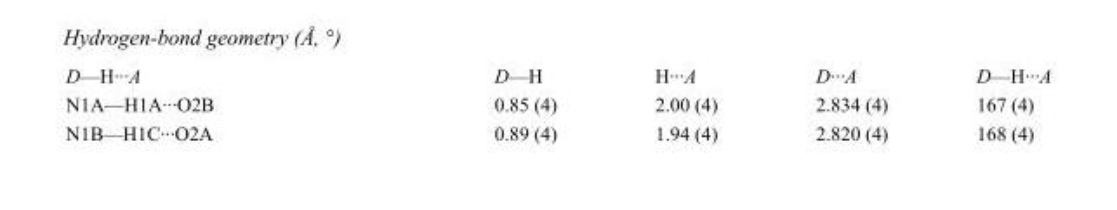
<table><tbody><tr><td>D—H···A</td><td>D—H</td><td>H···A</td><td>D···A</td><td>D—H···A</td></tr><tr><td>N1A—H1A···O2B</td><td>0.85 (4)</td><td>2.00 (4)</td><td>2.834 (4)</td><td>167 (4)</td></tr><tr><td>N1B—H1C···O2A</td><td>0.89 (4)</td><td>1.94 (4)</td><td>2.820 (4)</td><td>168 (4)</td></tr></tbody></table>